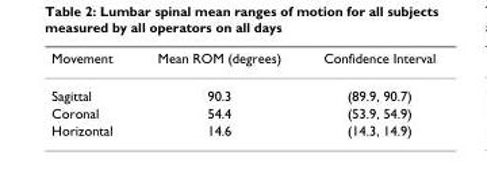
<table><thead><tr><td>Movement</td><td>Mean ROM (degrees)</td><td>Confidence Interval</td></tr></thead><tbody><tr><td>Sagittal</td><td>90.3</td><td>(89.9, 90.7)</td></tr><tr><td>Coronal</td><td>54.4</td><td>(53.9, 54.9)</td></tr><tr><td>Horizontal</td><td>14.6</td><td>(14.3, 14.9)</td></tr></tbody></table>